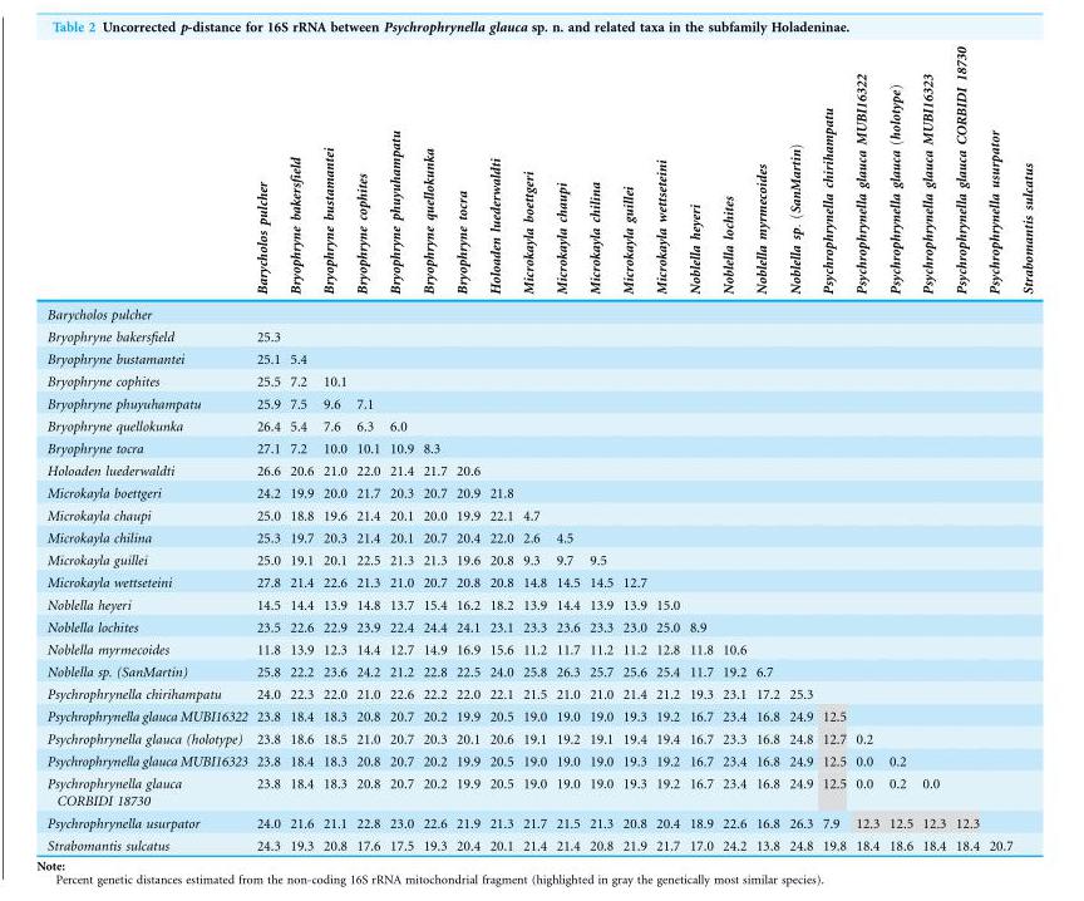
<table><thead><tr><td></td><td>Barycholos pulcher</td><td>Bryophryne bakersfield</td><td>Bryophryne bustamantei</td><td>Bryophryne cophites</td><td>Bryophryne phuyuhampatu</td><td>Bryophryne quellokunka</td><td>Bryophryne tocra</td><td>Holoaden luederwaldti</td><td>Microkayla boettgeri</td><td>Microkayla chaupi</td><td>Microkayla chilina</td><td>Microkayla guillei</td><td>Microkayla wettseteini</td><td>Noblella heyeri</td><td>Noblella lochites</td><td>Noblella myrmecoides</td><td>Noblella sp: ðSanMartinÞ</td><td>Psychrophrynella chirihampatu</td><td>Psychrophrynella glauca MUBI16322</td><td>Psychrophrynella glauca ðholotypeÞ</td><td>Psychrophrynella glauca MUBI16323</td><td>Psychrophrynella glauca CORBIDI 18730</td><td>Psychrophrynella usurpator</td><td>Strabomantis sulcatus</td></tr></thead><tbody><tr><td colspan="25">Barycholos pulcher</td></tr><tr><td>Bryophryne bakersfield</td><td>25.3</td><td></td><td></td><td></td><td></td><td></td><td></td><td></td><td></td><td></td><td></td><td></td><td></td><td></td><td></td><td></td><td></td><td></td><td></td><td></td><td></td><td></td><td></td><td></td></tr><tr><td>Bryophryne bustamantei</td><td>25.1</td><td>5.4</td><td></td><td></td><td></td><td></td><td></td><td></td><td></td><td></td><td></td><td></td><td></td><td></td><td></td><td></td><td></td><td></td><td></td><td></td><td></td><td></td><td></td><td></td></tr><tr><td>Bryophryne cophites</td><td>25.5</td><td>7.2</td><td>10.1</td><td></td><td></td><td></td><td></td><td></td><td></td><td></td><td></td><td></td><td></td><td></td><td></td><td></td><td></td><td></td><td></td><td></td><td></td><td></td><td></td><td></td></tr><tr><td>Bryophryne phuyuhampatu</td><td>25.9</td><td>7.5</td><td>9.6</td><td>7.1</td><td></td><td></td><td></td><td></td><td></td><td></td><td></td><td></td><td></td><td></td><td></td><td></td><td></td><td></td><td></td><td></td><td></td><td></td><td></td><td></td></tr><tr><td>Bryophryne quellokunka</td><td>26.4</td><td>5.4</td><td>7.6</td><td>6.3</td><td>6.0</td><td></td><td></td><td></td><td></td><td></td><td></td><td></td><td></td><td></td><td></td><td></td><td></td><td></td><td></td><td></td><td></td><td></td><td></td><td></td></tr><tr><td>Bryophryne tocra</td><td>27.1</td><td>7.2</td><td>10.0</td><td>10.1</td><td>10.9</td><td>8.3</td><td></td><td></td><td></td><td></td><td></td><td></td><td></td><td></td><td></td><td></td><td></td><td></td><td></td><td></td><td></td><td></td><td></td><td></td></tr><tr><td>Holoaden luederwaldti</td><td>26.6</td><td>20.6</td><td>21.0</td><td>22.0</td><td>21.4</td><td>21.7</td><td>20.6</td><td></td><td></td><td></td><td></td><td></td><td></td><td></td><td></td><td></td><td></td><td></td><td></td><td></td><td></td><td></td><td></td><td></td></tr><tr><td>Microkayla boettgeri</td><td>24.2</td><td>19.9</td><td>20.0</td><td>21.7</td><td>20.3</td><td>20.7</td><td>20.9</td><td>21.8</td><td></td><td></td><td></td><td></td><td></td><td></td><td></td><td></td><td></td><td></td><td></td><td></td><td></td><td></td><td></td><td></td></tr><tr><td>Microkayla chaupi</td><td>25.0</td><td>18.8</td><td>19.6</td><td>21.4</td><td>20.1</td><td>20.0</td><td>19.9</td><td>22.1</td><td>4.7</td><td></td><td></td><td></td><td></td><td></td><td></td><td></td><td></td><td></td><td></td><td></td><td></td><td></td><td></td><td></td></tr><tr><td>Microkayla chilina</td><td>25.3</td><td>19.7</td><td>20.3</td><td>21.4</td><td>20.1</td><td>20.7</td><td>20.4</td><td>22.0</td><td>2.6</td><td>4.5</td><td></td><td></td><td></td><td></td><td></td><td></td><td></td><td></td><td></td><td></td><td></td><td></td><td></td><td></td></tr><tr><td>Microkayla guillei</td><td>25.0</td><td>19.1</td><td>20.1</td><td>22.5</td><td>21.3</td><td>21.3</td><td>19.6</td><td>20.8</td><td>9.3</td><td>9.7</td><td>9.5</td><td></td><td></td><td></td><td></td><td></td><td></td><td></td><td></td><td></td><td></td><td></td><td></td><td></td></tr><tr><td>Microkayla wettseteini</td><td>27.8</td><td>21.4</td><td>22.6</td><td>21.3</td><td>21.0</td><td>20.7</td><td>20.8</td><td>20.8</td><td>14.8</td><td>14.5</td><td>14.5</td><td>12.7</td><td></td><td></td><td></td><td></td><td></td><td></td><td></td><td></td><td></td><td></td><td></td><td></td></tr><tr><td>Noblella heyeri</td><td>14.5</td><td>14.4</td><td>13.9</td><td>14.8</td><td>13.7</td><td>15.4</td><td>16.2</td><td>18.2</td><td>13.9</td><td>14.4</td><td>13.9</td><td>13.9</td><td>15.0</td><td></td><td></td><td></td><td></td><td></td><td></td><td></td><td></td><td></td><td></td><td></td></tr><tr><td>Noblella lochites</td><td>23.5</td><td>22.6</td><td>22.9</td><td>23.9</td><td>22.4</td><td>24.4</td><td>24.1</td><td>23.1</td><td>23.3</td><td>23.6</td><td>23.3</td><td>23.0</td><td>25.0</td><td>8.9</td><td></td><td></td><td></td><td></td><td></td><td></td><td></td><td></td><td></td><td></td></tr><tr><td>Noblella myrmecoides</td><td>11.8</td><td>13.9</td><td>12.3</td><td>14.4</td><td>12.7</td><td>14.9</td><td>16.9</td><td>15.6</td><td>11.2</td><td>11.7</td><td>11.2</td><td>11.2</td><td>12.8</td><td>11.8</td><td>10.6</td><td></td><td></td><td></td><td></td><td></td><td></td><td></td><td></td><td></td></tr><tr><td>Noblella sp. (SanMartin)</td><td>25.8</td><td>22.2</td><td>23.6</td><td>24.2</td><td>21.2</td><td>22.8</td><td>22.5</td><td>24.0</td><td>25.8</td><td>26.3</td><td>25.7</td><td>25.6</td><td>25.4</td><td>11.7</td><td>19.2</td><td>6.7</td><td></td><td></td><td></td><td></td><td></td><td></td><td></td><td></td></tr><tr><td>Psychrophrynella chirihampatu</td><td>24.0</td><td>22.3</td><td>22.0</td><td>21.0</td><td>22.6</td><td>22.2</td><td>22.0</td><td>22.1</td><td>21.5</td><td>21.0</td><td>21.0</td><td>21.4</td><td>21.2</td><td>19.3</td><td>23.1</td><td>17.2</td><td>25.3</td><td></td><td></td><td></td><td></td><td></td><td></td><td></td></tr><tr><td>Psychrophrynella glauca MUBI16322</td><td>23.8</td><td>18.4</td><td>18.3</td><td>20.8</td><td>20.7</td><td>20.2</td><td>19.9</td><td>20.5</td><td>19.0</td><td>19.0</td><td>19.0</td><td>19.3</td><td>19.2</td><td>16.7</td><td>23.4</td><td>16.8</td><td>24.9</td><td>12.5</td><td></td><td></td><td></td><td></td><td></td><td></td></tr><tr><td>Psychrophrynella glauca (holotype)</td><td>23.8</td><td>18.6</td><td>18.5</td><td>21.0</td><td>20.7</td><td>20.3</td><td>20.1</td><td>20.6</td><td>19.1</td><td>19.2</td><td>19.1</td><td>19.4</td><td>19.4</td><td>16.7</td><td>23.3</td><td>16.8</td><td>24.8</td><td>12.7</td><td>0.2</td><td></td><td></td><td></td><td></td><td></td></tr><tr><td>Psychrophrynella glauca MUBI16323</td><td>23.8</td><td>18.4</td><td>18.3</td><td>20.8</td><td>20.7</td><td>20.2</td><td>19.9</td><td>20.5</td><td>19.0</td><td>19.0</td><td>19.0</td><td>19.3</td><td>19.2</td><td>16.7</td><td>23.4</td><td>16.8</td><td>24.9</td><td>12.5</td><td>0.0</td><td>0.2</td><td></td><td></td><td></td><td></td></tr><tr><td>Psychrophrynella glauca CORBIDI 18730</td><td>23.8</td><td>18.4</td><td>18.3</td><td>20.8</td><td>20.7</td><td>20.2</td><td>19.9</td><td>20.5</td><td>19.0</td><td>19.0</td><td>19.0</td><td>19.3</td><td>19.2</td><td>16.7</td><td>23.4</td><td>16.8</td><td>24.9</td><td>12.5</td><td>0.0</td><td>0.2</td><td>0.0</td><td></td><td></td><td></td></tr><tr><td>Psychrophrynella usurpator</td><td>24.0</td><td>21.6</td><td>21.1</td><td>22.8</td><td>23.0</td><td>22.6</td><td>21.9</td><td>21.3</td><td>21.7</td><td>21.5</td><td>21.3</td><td>20.8</td><td>20.4</td><td>18.9</td><td>22.6</td><td>16.8</td><td>26.3</td><td>7.9</td><td>12.3</td><td>12.5</td><td>12.3</td><td>12.3</td><td></td><td></td></tr><tr><td>Strabomantis sulcatus</td><td>24.3</td><td>19.3</td><td>20.8</td><td>17.6</td><td>17.5</td><td>19.3</td><td>20.4</td><td>20.1</td><td>21.4</td><td>21.4</td><td>20.8</td><td>21.9</td><td>21.7</td><td>17.0</td><td>24.2</td><td>13.8</td><td>24.8</td><td>19.8</td><td>18.4</td><td>18.6</td><td>18.4</td><td>18.4</td><td>20.7</td><td></td></tr></tbody></table>